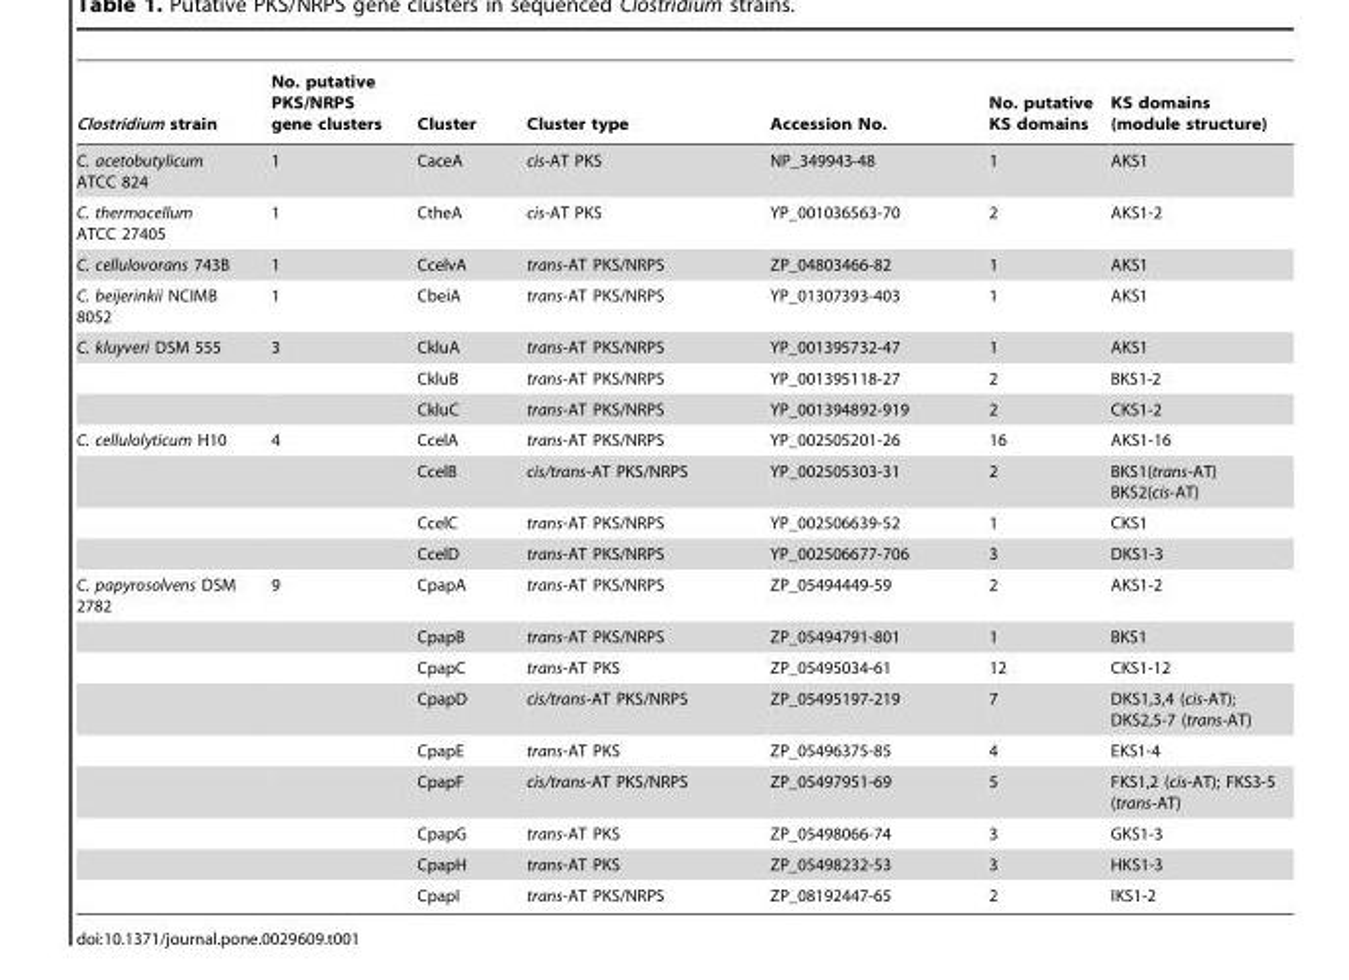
<table><thead><tr><td>Clostridium strain</td><td>No. putative PKS/NRPS gene clusters</td><td>Cluster</td><td>Cluster type</td><td>Accession No.</td><td>No. putative KS domains</td><td>KS domains (module structure)</td></tr></thead><tbody><tr><td>C. acetobutylicum ATCC 824</td><td>1</td><td>CaceA</td><td>cis-AT PKS</td><td>NP_349943-48</td><td>1</td><td>AKS1</td></tr><tr><td>C. thermocellum ATCC 27405</td><td>1</td><td>CtheA</td><td>cis-AT PKS</td><td>YP_001036563-70</td><td>2</td><td>AKS1-2</td></tr><tr><td>C. cellulovorans 743B</td><td>1</td><td>CcelvA</td><td>trans-AT PKS/NRPS</td><td>ZP_04803466-82</td><td>1</td><td>AKS1</td></tr><tr><td>C. beijerinkii NCIMB 8052</td><td>1</td><td>CbeiA</td><td>trans-AT PKS/NRPS</td><td>YP_01307393-403</td><td>1</td><td>AKS1</td></tr><tr><td rowspan="3">C. kluyveri DSM 555</td><td>3</td><td>CkluA</td><td>trans-AT PKS/NRPS</td><td>YP_001395732-47</td><td>1</td><td>AKS1</td></tr><tr><td></td><td>CkluB</td><td>trans-AT PKS/NRPS</td><td>YP_001395118-27</td><td>2</td><td>BKS1-2</td></tr><tr><td></td><td>CkluC</td><td>trans-AT PKS/NRPS</td><td>YP_001394892-919</td><td>2</td><td>CKS1-2</td></tr><tr><td rowspan="4">C. cellulolyticum H10</td><td>4</td><td>CcelA</td><td>trans-AT PKS/NRPS</td><td>YP_002505201-26</td><td>16</td><td>AKS1-16</td></tr><tr><td></td><td>CcelB</td><td>cis/trans-AT PKS/NRPS</td><td>YP_002505303-31</td><td>2</td><td>BKS1(trans-AT) BKS2(cis-AT)</td></tr><tr><td></td><td>CcelC</td><td>trans-AT PKS/NRPS</td><td>YP_002506639-52</td><td>1</td><td>CKS1</td></tr><tr><td></td><td>CcelD</td><td>trans-AT PKS/NRPS</td><td>YP_002506677-706</td><td>3</td><td>DKS1-3</td></tr><tr><td rowspan="9">C. papyrosolvens DSM 2782</td><td>9</td><td>CpapA</td><td>trans-AT PKS/NRPS</td><td>ZP_05494449-59</td><td>2</td><td>AKS1-2</td></tr><tr><td></td><td>CpapB</td><td>trans-AT PKS/NRPS</td><td>ZP_05494791-801</td><td>1</td><td>BKS1</td></tr><tr><td></td><td>CpapC</td><td>trans-AT PKS</td><td>ZP_05495034-61</td><td>12</td><td>CKS1-12</td></tr><tr><td></td><td>CpapD</td><td>cis/trans-AT PKS/NRPS</td><td>ZP_05495197-219</td><td>7</td><td>DKS1,3,4 (cis-AT); DKS2,5-7 (trans-AT)</td></tr><tr><td></td><td>CpapE</td><td>trans-AT PKS</td><td>ZP_05496375-85</td><td>4</td><td>EKS1-4</td></tr><tr><td></td><td>CpapF</td><td>cis/trans-AT PKS/NRPS</td><td>ZP_05497951-69</td><td>5</td><td>FKS1,2 (cis-AT); FKS3-5 (trans-AT)</td></tr><tr><td></td><td>CpapG</td><td>trans-AT PKS</td><td>ZP_05498066-74</td><td>3</td><td>GKS1-3</td></tr><tr><td></td><td>CpapH</td><td>trans-AT PKS</td><td>ZP_05498232-53</td><td>3</td><td>HKS1-3</td></tr><tr><td></td><td>CpapI</td><td>trans-AT PKS/NRPS</td><td>ZP_08192447-65</td><td>2</td><td>IKS1-2</td></tr></tbody></table>